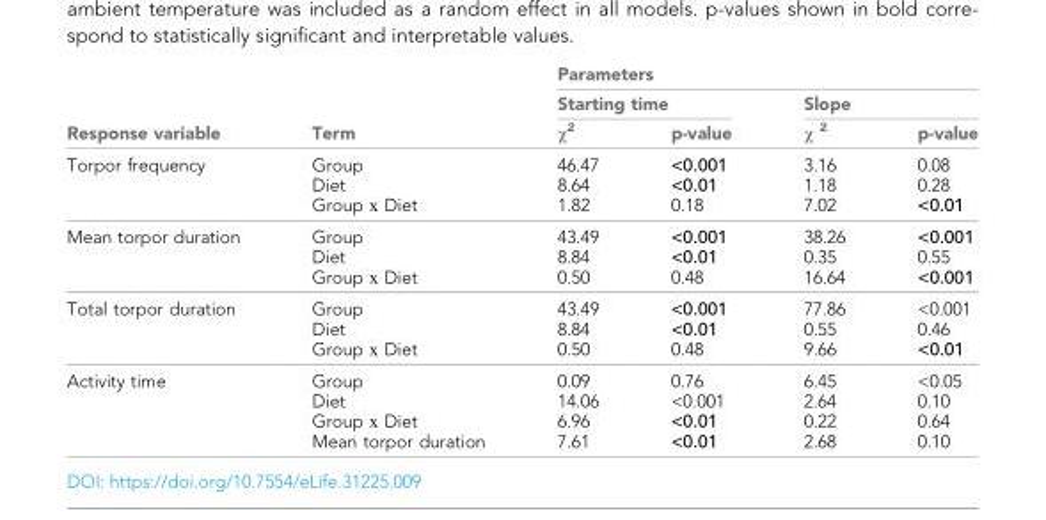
<table><thead><tr><td rowspan="3">Response variable</td><td rowspan="3">Term</td><td colspan="4">Parameters</td></tr><tr><td colspan="2">Starting time</td><td colspan="2">Slope</td></tr><tr><td>χ<sup>2</sup></td><td>p-value</td><td>χ <sup>2</sup></td><td>p-value</td></tr></thead><tbody><tr><td>Torpor frequency</td><td>Group Diet Group х Diet</td><td>46.47 8.64 1.82</td><td>&lt;0.001 &lt;0.01 0.18</td><td>3.16 1.18 7.02</td><td>0.08 0.28 &lt;0.01</td></tr><tr><td>Mean torpor duration</td><td>Group Diet Group х Diet</td><td>43.49 8.84 0.50</td><td>&lt;0.001 &lt;0.01 0.48</td><td>38.26 0.35 16.64</td><td>&lt;0.001 0.55 &lt;0.001</td></tr><tr><td>Total torpor duration</td><td>Group Diet Group х Diet</td><td>43.49 8.84 0.50</td><td>&lt;0.001 &lt;0.01 0.48</td><td>77.86 0.55 9.66</td><td>&lt;0.001 0.46 &lt;0.01</td></tr><tr><td>Activity time</td><td>Group Diet Group х Diet Mean torpor duration</td><td>0.09 14.06 6.96 7.61</td><td>0.76 &lt;0.001 &lt;0.01 &lt;0.01</td><td>6.45 2.64 0.22 2.68</td><td>&lt;0.05 0.10 0.64 0.10</td></tr></tbody></table>